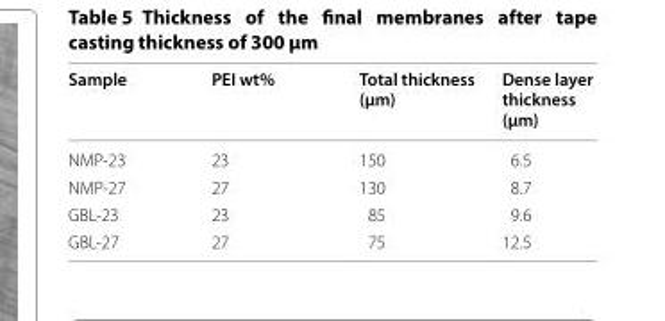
<table><thead><tr><td>Sample</td><td>PEI wt%</td><td>Total thickness (μm)</td><td>Dense layer thickness (μm)</td></tr></thead><tbody><tr><td>NMP‑23</td><td>23</td><td>150</td><td>6.5</td></tr><tr><td>NMP‑27</td><td>27</td><td>130</td><td>8.7</td></tr><tr><td>GBL‑23</td><td>23</td><td>85</td><td>9.6</td></tr><tr><td>GBL‑27</td><td>27</td><td>75</td><td>12.5</td></tr></tbody></table>